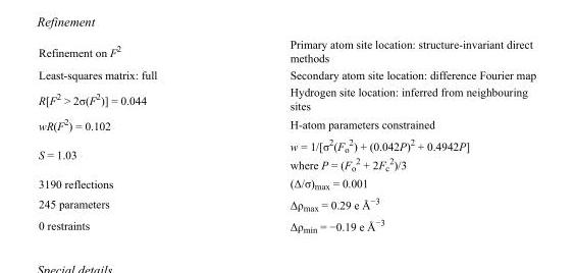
<table><tbody><tr><td>Refinement on F<sup>2</sup></td><td>Primary atom site location: structure-invariant direct methods</td></tr><tr><td>Least-squares matrix: full</td><td>Secondary atom site location: difference Fourier map</td></tr><tr><td>R[F<sup>2</sup> &gt; 2σ(F<sup>2</sup>)] = 0.044</td><td>Hydrogen site location: inferred from neighbouring sites</td></tr><tr><td>wR(F<sup>2</sup>) = 0.102</td><td>H-atom parameters constrained</td></tr><tr><td>S = 1.03</td><td>w = 1/[σ<sup>2</sup>(F<sub>o</sub> <sup>2</sup>) + (0.042P)<sup>2</sup> + 0.4942P] where P = (F<sub>o</sub> <sup>2</sup> + 2F<sub>c</sub> <sup>2</sup>)/3</td></tr><tr><td>3190 reflections</td><td>(Δ/σ)<sub>max</sub> = 0.001</td></tr><tr><td>245 parameters</td><td>Δρ<sub>max</sub> = 0.29 e Å<sup>−3</sup></td></tr><tr><td>0 restraints</td><td>Δρ<sub>min</sub> = −0.19 e Å<sup>−3</sup></td></tr></tbody></table>